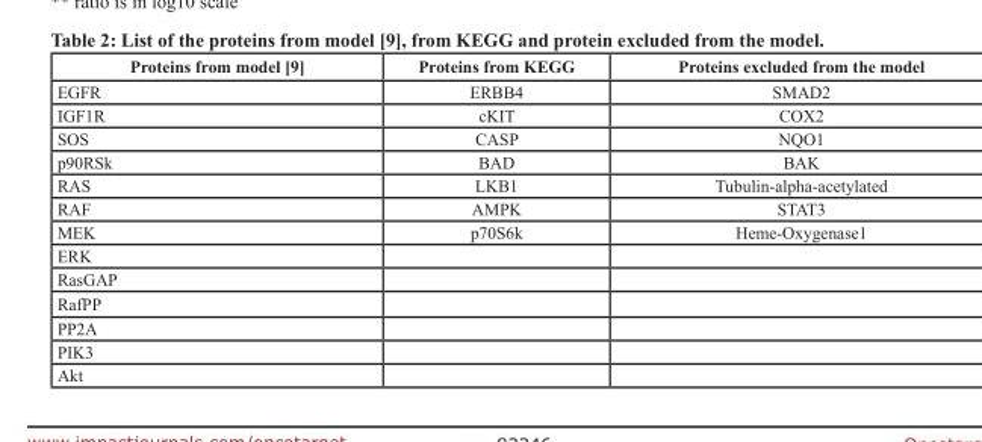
<table><thead><tr><td>Proteins from model [9]</td><td>Proteins from KEGG</td><td>Proteins excluded from the model</td></tr></thead><tbody><tr><td>EGFR</td><td>ERBB4</td><td>SMAD2</td></tr><tr><td>IGF1R</td><td>cKIT</td><td>COX2</td></tr><tr><td>SOS</td><td>CASP</td><td>NQO1</td></tr><tr><td>p90RSk</td><td>BAD</td><td>BAK</td></tr><tr><td>RAS</td><td>LKB1</td><td>Tubulin-alpha-acetylated</td></tr><tr><td>RAF</td><td>AMPK</td><td>STAT3</td></tr><tr><td>MEK</td><td>p70S6k</td><td>Heme-Oxygenase1</td></tr><tr><td colspan="3">ERK</td></tr><tr><td colspan="3">RasGAP</td></tr><tr><td colspan="3">RafPP</td></tr><tr><td colspan="3">PP2A</td></tr><tr><td colspan="3">PIK3</td></tr><tr><td>Akt</td><td></td><td></td></tr></tbody></table>